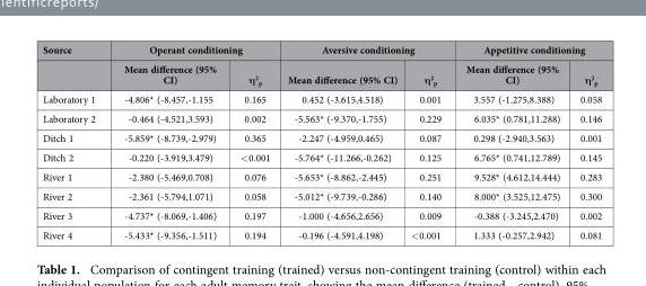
<table><thead><tr><td rowspan="2">Source</td><td colspan="2">Operant conditioning</td><td colspan="2">Aversive conditioning</td><td colspan="2">Appetitive conditioning</td></tr><tr><td>Mean difference (95% CI)</td><td>η<sup>2</sup> <sub>p</sub></td><td>Mean difference (95% CI)</td><td>η<sup>2</sup> <sub>p</sub></td><td>Mean difference (95% CI)</td><td>η<sup>2</sup> <sub>p</sub></td></tr></thead><tbody><tr><td>Laboratory 1</td><td>-4.806* (-8.457,-1.155</td><td>0.165</td><td>0.452 (-3.615,4.518)</td><td>0.001</td><td>3.557 (-1.275,8.388)</td><td>0.058</td></tr><tr><td>Laboratory 2</td><td>-0.464 (-4.521,3.593)</td><td>0.002</td><td>-5.563* (-9.370,-1.755)</td><td>0.229</td><td>6.035* (0.781,11.288)</td><td>0.146</td></tr><tr><td>Ditch 1</td><td>-5.859* (-8.739,-2.979)</td><td>0.365</td><td>-2.247 (-4.959,0.465)</td><td>0.087</td><td>0.298 (-2.940,3.563)</td><td>0.001</td></tr><tr><td>Ditch 2</td><td>-0.220 (-3.919,3.479)</td><td>&lt; 0.001</td><td>-5.764* (-11.266,-0.262)</td><td>0.125</td><td>6.765* (0.741,12.789)</td><td>0.145</td></tr><tr><td>River 1</td><td>-2.380 (-5.469,0.708)</td><td>0.076</td><td>-5.653* (-8.862,-2.445)</td><td>0.251</td><td>9.528* (4.612,14.444)</td><td>0.283</td></tr><tr><td>River 2</td><td>-2.361 (-5.794,1.071)</td><td>0.058</td><td>-5.012* (-9.739,-0.286)</td><td>0.140</td><td>8.000* (3.525,12.475)</td><td>0.300</td></tr><tr><td>River 3</td><td>-4.737* (-8.069,-1.406)</td><td>0.197</td><td>-1.000 (-4.656,2.656)</td><td>0.009</td><td>-0.388 (-3.245,2.470)</td><td>0.002</td></tr><tr><td>River 4</td><td>-5.433* (-9.356,-1.511)</td><td>0.194</td><td>-0.196 (-4.591,4.198)</td><td>&lt; 0.001</td><td>1.333 (-0.257,2.942)</td><td>0.081</td></tr></tbody></table>